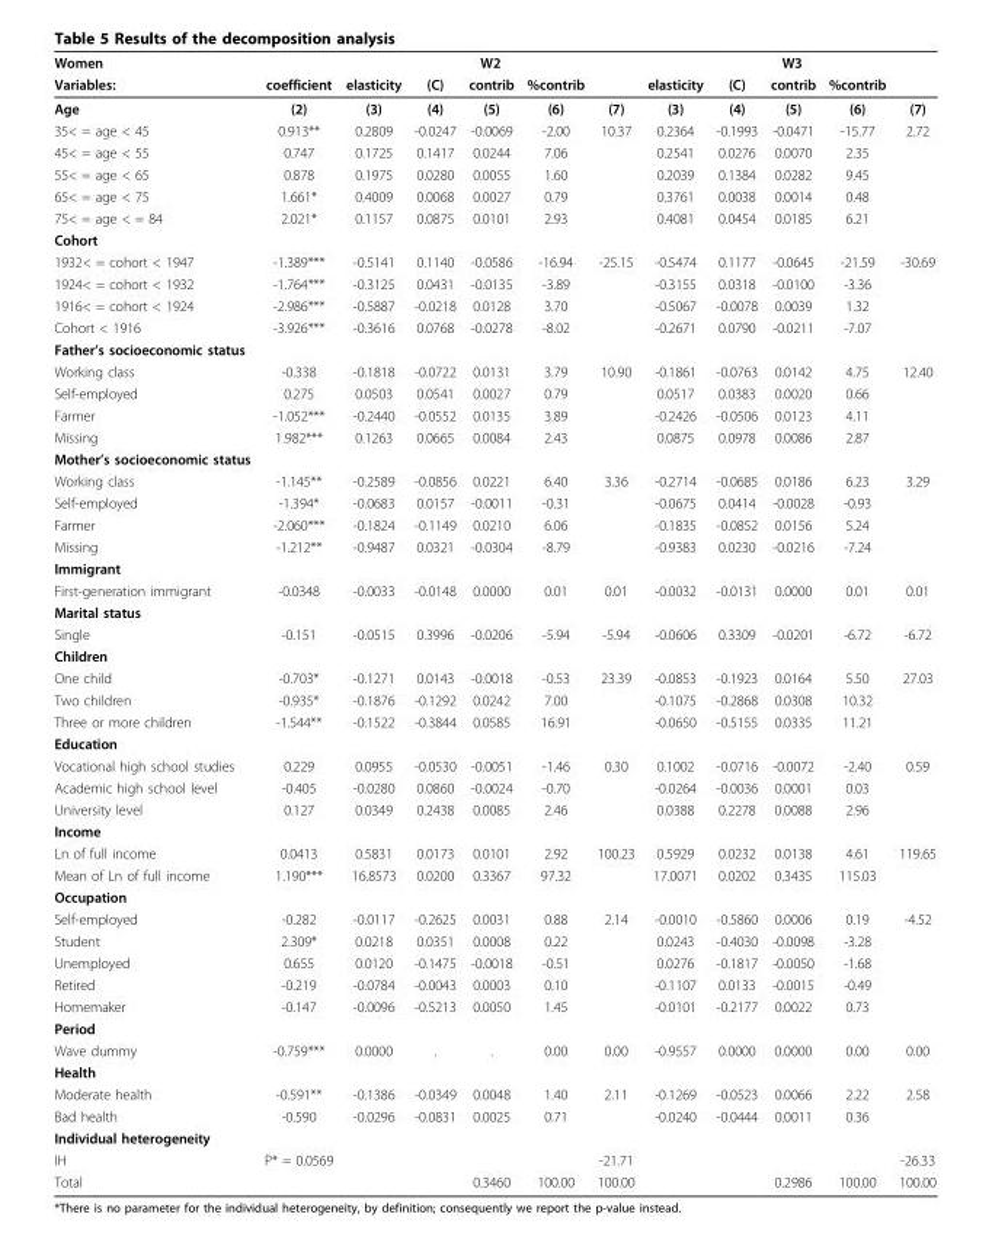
<table><thead><tr><td rowspan="2">Women Variables:</td><td rowspan="2">coefficient</td><td colspan="5">W2</td><td colspan="5">W3</td></tr><tr><td>elasticity</td><td>(C)</td><td>contrib</td><td>%contrib</td><td></td><td>elasticity</td><td>(C)</td><td>contrib</td><td>%contrib</td><td></td></tr></thead><tbody><tr><td>Age</td><td>(2)</td><td>(3)</td><td>(4)</td><td>(5)</td><td>(6)</td><td>(7)</td><td>(3)</td><td>(4)</td><td>(5)</td><td>(6)</td><td>(7)</td></tr><tr><td>35&lt; = age &lt; 45</td><td>0.913**</td><td>0.2809</td><td>-0.0247</td><td>-0.0069</td><td>-2.00</td><td>10.37</td><td>0.2364</td><td>-0.1993</td><td>-0.0471</td><td>-15.77</td><td>2.72</td></tr><tr><td>45&lt; = age &lt; 55</td><td>0.747</td><td>0.1725</td><td>0.1417</td><td>0.0244</td><td>7.06</td><td></td><td>0.2541</td><td>0.0276</td><td>0.0070</td><td>2.35</td><td></td></tr><tr><td>55&lt; = age &lt; 65</td><td>0.878</td><td>0.1975</td><td>0.0280</td><td>0.0055</td><td>1.60</td><td></td><td>0.2039</td><td>0.1384</td><td>0.0282</td><td>9.45</td><td></td></tr><tr><td>65&lt; = age &lt; 75</td><td>1.661*</td><td>0.4009</td><td>0.0068</td><td>0.0027</td><td>0.79</td><td></td><td>0.3761</td><td>0.0038</td><td>0.0014</td><td>0.48</td><td></td></tr><tr><td>75&lt; = age &lt; = 84</td><td>2.021*</td><td>0.1157</td><td>0.0875</td><td>0.0101</td><td>2.93</td><td></td><td>0.4081</td><td>0.0454</td><td>0.0185</td><td>6.21</td><td></td></tr><tr><td colspan="12">Cohort</td></tr><tr><td>1932&lt; = cohort &lt; 1947</td><td>-1.389***</td><td>-0.5141</td><td>0.1140</td><td>-0.0586</td><td>-16.94</td><td>-25.15</td><td>-0.5474</td><td>0.1177</td><td>-0.0645</td><td>-21.59</td><td>-30.69</td></tr><tr><td>1924&lt; = cohort &lt; 1932</td><td>-1.764***</td><td>-0.3125</td><td>0.0431</td><td>-0.0135</td><td>-3.89</td><td></td><td>-0.3155</td><td>0.0318</td><td>-0.0100</td><td>-3.36</td><td></td></tr><tr><td>1916&lt; = cohort &lt; 1924</td><td>-2.986***</td><td>-0.5887</td><td>-0.0218</td><td>0.0128</td><td>3.70</td><td></td><td>-0.5067</td><td>-0.0078</td><td>0.0039</td><td>1.32</td><td></td></tr><tr><td>Cohort &lt; 1916</td><td>-3.926***</td><td>-0.3616</td><td>0.0768</td><td>-0.0278</td><td>-8.02</td><td></td><td>-0.2671</td><td>0.0790</td><td>-0.0211</td><td>-7.07</td><td></td></tr><tr><td colspan="12">Father’s socioeconomic status</td></tr><tr><td>Working class</td><td>-0.338</td><td>-0.1818</td><td>-0.0722</td><td>0.0131</td><td>3.79</td><td>10.90</td><td>-0.1861</td><td>-0.0763</td><td>0.0142</td><td>4.75</td><td>12.40</td></tr><tr><td>Self-employed</td><td>0.275</td><td>0.0503</td><td>0.0541</td><td>0.0027</td><td>0.79</td><td></td><td>0.0517</td><td>0.0383</td><td>0.0020</td><td>0.66</td><td></td></tr><tr><td>Farmer</td><td>-1.052***</td><td>-0.2440</td><td>-0.0552</td><td>0.0135</td><td>3.89</td><td></td><td>-0.2426</td><td>-0.0506</td><td>0.0123</td><td>4.11</td><td></td></tr><tr><td>Missing</td><td>1.982***</td><td>0.1263</td><td>0.0665</td><td>0.0084</td><td>2.43</td><td></td><td>0.0875</td><td>0.0978</td><td>0.0086</td><td>2.87</td><td></td></tr><tr><td colspan="12">Mother’s socioeconomic status</td></tr><tr><td>Working class</td><td>-1.145**</td><td>-0.2589</td><td>-0.0856</td><td>0.0221</td><td>6.40</td><td>3.36</td><td>-0.2714</td><td>-0.0685</td><td>0.0186</td><td>6.23</td><td>3.29</td></tr><tr><td>Self-employed</td><td>-1.394*</td><td>-0.0683</td><td>0.0157</td><td>-0.0011</td><td>-0.31</td><td></td><td>-0.0675</td><td>0.0414</td><td>-0.0028</td><td>-0.93</td><td></td></tr><tr><td>Farmer</td><td>-2.060***</td><td>-0.1824</td><td>-0.1149</td><td>0.0210</td><td>6.06</td><td></td><td>-0.1835</td><td>-0.0852</td><td>0.0156</td><td>5.24</td><td></td></tr><tr><td>Missing</td><td>-1.212**</td><td>-0.9487</td><td>0.0321</td><td>-0.0304</td><td>-8.79</td><td></td><td>-0.9383</td><td>0.0230</td><td>-0.0216</td><td>-7.24</td><td></td></tr><tr><td colspan="12">Immigrant</td></tr><tr><td>First-generation immigrant</td><td>-0.0348</td><td>-0.0033</td><td>-0.0148</td><td>0.0000</td><td>0.01</td><td>0.01</td><td>-0.0032</td><td>-0.0131</td><td>0.0000</td><td>0.01</td><td>0.01</td></tr><tr><td colspan="12">Marital status</td></tr><tr><td>Single</td><td>-0.151</td><td>-0.0515</td><td>0.3996</td><td>-0.0206</td><td>-5.94</td><td>-5.94</td><td>-0.0606</td><td>0.3309</td><td>-0.0201</td><td>-6.72</td><td>-6.72</td></tr><tr><td colspan="12">Children</td></tr><tr><td>One child</td><td>-0.703*</td><td>-0.1271</td><td>0.0143</td><td>-0.0018</td><td>-0.53</td><td>23.39</td><td>-0.0853</td><td>-0.1923</td><td>0.0164</td><td>5.50</td><td>27.03</td></tr><tr><td>Two children</td><td>-0.935*</td><td>-0.1876</td><td>-0.1292</td><td>0.0242</td><td>7.00</td><td></td><td>-0.1075</td><td>-0.2868</td><td>0.0308</td><td>10.32</td><td></td></tr><tr><td>Three or more children</td><td>-1.544**</td><td>-0.1522</td><td>-0.3844</td><td>0.0585</td><td>16.91</td><td></td><td>-0.0650</td><td>-0.5155</td><td>0.0335</td><td>11.21</td><td></td></tr><tr><td colspan="12">Education</td></tr><tr><td>Vocational high school studies</td><td>0.229</td><td>0.0955</td><td>-0.0530</td><td>-0.0051</td><td>-1.46</td><td>0.30</td><td>0.1002</td><td>-0.0716</td><td>-0.0072</td><td>-2.40</td><td>0.59</td></tr><tr><td>Academic high school level</td><td>-0.405</td><td>-0.0280</td><td>0.0860</td><td>-0.0024</td><td>-0.70</td><td></td><td>-0.0264</td><td>-0.0036</td><td>0.0001</td><td>0.03</td><td></td></tr><tr><td>University level</td><td>0.127</td><td>0.0349</td><td>0.2438</td><td>0.0085</td><td>2.46</td><td></td><td>0.0388</td><td>0.2278</td><td>0.0088</td><td>2.96</td><td></td></tr><tr><td colspan="12">Income</td></tr><tr><td>Ln of full income</td><td>0.0413</td><td>0.5831</td><td>0.0173</td><td>0.0101</td><td>2.92</td><td>100.23</td><td>0.5929</td><td>0.0232</td><td>0.0138</td><td>4.61</td><td>119.65</td></tr><tr><td>Mean of Ln of full income</td><td>1.190***</td><td>16.8573</td><td>0.0200</td><td>0.3367</td><td>97.32</td><td></td><td>17.0071</td><td>0.0202</td><td>0.3435</td><td>115.03</td><td></td></tr><tr><td colspan="12">Occupation</td></tr><tr><td>Self-employed</td><td>-0.282</td><td>-0.0117</td><td>-0.2625</td><td>0.0031</td><td>0.88</td><td>2.14</td><td>-0.0010</td><td>-0.5860</td><td>0.0006</td><td>0.19</td><td>-4.52</td></tr><tr><td>Student</td><td>2.309*</td><td>0.0218</td><td>0.0351</td><td>0.0008</td><td>0.22</td><td></td><td>0.0243</td><td>-0.4030</td><td>-0.0098</td><td>-3.28</td><td></td></tr><tr><td>Unemployed</td><td>0.655</td><td>0.0120</td><td>-0.1475</td><td>-0.0018</td><td>-0.51</td><td></td><td>0.0276</td><td>-0.1817</td><td>-0.0050</td><td>-1.68</td><td></td></tr><tr><td>Retired</td><td>-0.219</td><td>-0.0784</td><td>-0.0043</td><td>0.0003</td><td>0.10</td><td></td><td>-0.1107</td><td>0.0133</td><td>-0.0015</td><td>-0.49</td><td></td></tr><tr><td>Homemaker</td><td>-0.147</td><td>-0.0096</td><td>-0.5213</td><td>0.0050</td><td>1.45</td><td></td><td>-0.0101</td><td>-0.2177</td><td>0.0022</td><td>0.73</td><td></td></tr><tr><td colspan="12">Period</td></tr><tr><td>Wave dummy</td><td>-0.759***</td><td>0.0000</td><td>.</td><td>.</td><td>0.00</td><td>0.00</td><td>-0.9557</td><td>0.0000</td><td>0.0000</td><td>0.00</td><td>0.00</td></tr><tr><td colspan="12">Health</td></tr><tr><td>Moderate health</td><td>-0.591**</td><td>-0.1386</td><td>-0.0349</td><td>0.0048</td><td>1.40</td><td>2.11</td><td>-0.1269</td><td>-0.0523</td><td>0.0066</td><td>2.22</td><td>2.58</td></tr><tr><td>Bad health</td><td>-0.590</td><td>-0.0296</td><td>-0.0831</td><td>0.0025</td><td>0.71</td><td></td><td>-0.0240</td><td>-0.0444</td><td>0.0011</td><td>0.36</td><td></td></tr><tr><td colspan="12">Individual heterogeneity</td></tr><tr><td>IH</td><td>P* = 0.0569</td><td></td><td></td><td></td><td></td><td>-21.71</td><td></td><td></td><td></td><td></td><td>-26.33</td></tr><tr><td>Total</td><td></td><td></td><td></td><td>0.3460</td><td>100.00</td><td>100.00</td><td></td><td></td><td>0.2986</td><td>100.00</td><td>100.00</td></tr></tbody></table>